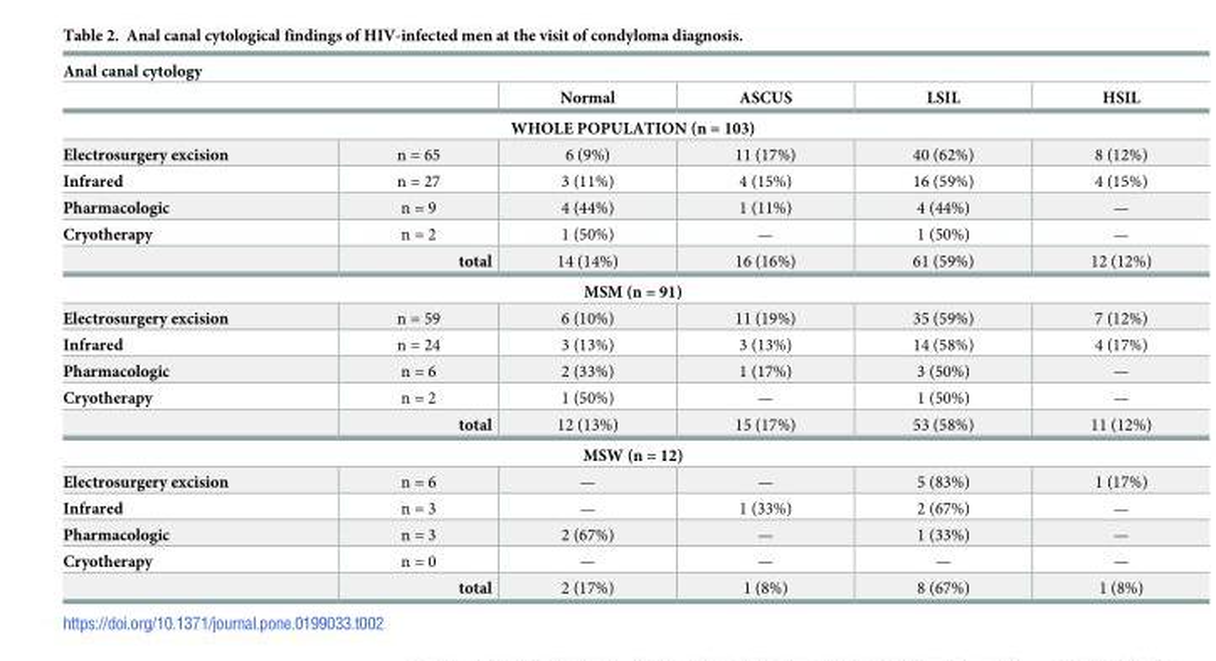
<table><thead><tr><td colspan="6">Anal canal cytology</td></tr><tr><td></td><td></td><td>Normal</td><td>ASCUS</td><td>LSIL</td><td>HSIL</td></tr></thead><tbody><tr><td colspan="6">WHOLE POPULATION (n = 103)</td></tr><tr><td>Electrosurgery excision</td><td>n = 65</td><td>6 (9%)</td><td>11 (17%)</td><td>40 (62%)</td><td>8 (12%)</td></tr><tr><td>Infrared</td><td>n = 27</td><td>3 (11%)</td><td>4 (15%)</td><td>16 (59%)</td><td>4 (15%)</td></tr><tr><td>Pharmacologic</td><td>n = 9</td><td>4 (44%)</td><td>1 (11%)</td><td>4 (44%)</td><td>—</td></tr><tr><td rowspan="2">Cryotherapy</td><td>n = 2</td><td>1 (50%)</td><td>—</td><td>1 (50%)</td><td>—</td></tr><tr><td>total</td><td>14 (14%)</td><td>16 (16%)</td><td>61 (59%)</td><td>12 (12%)</td></tr><tr><td colspan="6">MSM (n = 91)</td></tr><tr><td>Electrosurgery excision</td><td>n = 59</td><td>6 (10%)</td><td>11 (19%)</td><td>35 (59%)</td><td>7 (12%)</td></tr><tr><td>Infrared</td><td>n = 24</td><td>3 (13%)</td><td>3 (13%)</td><td>14 (58%)</td><td>4 (17%)</td></tr><tr><td>Pharmacologic</td><td>n = 6</td><td>2 (33%)</td><td>1 (17%)</td><td>3 (50%)</td><td>—</td></tr><tr><td rowspan="2">Cryotherapy</td><td>n = 2</td><td>1 (50%)</td><td>—</td><td>1 (50%)</td><td>—</td></tr><tr><td>total</td><td>12 (13%)</td><td>15 (17%)</td><td>53 (58%)</td><td>11 (12%)</td></tr><tr><td colspan="6">MSW (n = 12)</td></tr><tr><td>Electrosurgery excision</td><td>n = 6</td><td>—</td><td>—</td><td>5 (83%)</td><td>1 (17%)</td></tr><tr><td>Infrared</td><td>n = 3</td><td>—</td><td>1 (33%)</td><td>2 (67%)</td><td>—</td></tr><tr><td>Pharmacologic</td><td>n = 3</td><td>2 (67%)</td><td>—</td><td>1 (33%)</td><td>—</td></tr><tr><td rowspan="2">Cryotherapy</td><td>n = 0</td><td>—</td><td>—</td><td>—</td><td>—</td></tr><tr><td>total</td><td>2 (17%)</td><td>1 (8%)</td><td>8 (67%)</td><td>1 (8%)</td></tr></tbody></table>